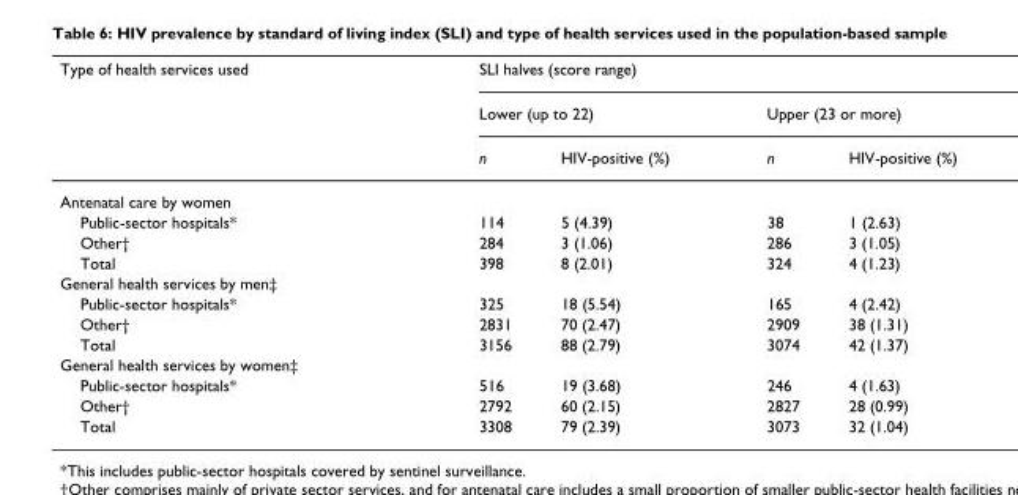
<table><thead><tr><td rowspan="3">Type of health services used</td><td colspan="4">SLI halves (score range)</td></tr><tr><td colspan="2">Lower (up to 22)</td><td colspan="2">Upper (23 or more)</td></tr><tr><td>n</td><td>HIV-positive (%)</td><td>n</td><td>HIV-positive (%)</td></tr></thead><tbody><tr><td colspan="5">Antenatal care by women</td></tr><tr><td>Public-sector hospitals*</td><td>114</td><td>5 (4.39)</td><td>38</td><td>1 (2.63)</td></tr><tr><td>Other†</td><td>284</td><td>3 (1.06)</td><td>286</td><td>3 (1.05)</td></tr><tr><td>Total</td><td>398</td><td>8 (2.01)</td><td>324</td><td>4 (1.23)</td></tr><tr><td colspan="5">General health services by men‡</td></tr><tr><td>Public-sector hospitals*</td><td>325</td><td>18 (5.54)</td><td>165</td><td>4 (2.42)</td></tr><tr><td>Other†</td><td>2831</td><td>70 (2.47)</td><td>2909</td><td>38 (1.31)</td></tr><tr><td>Total</td><td>3156</td><td>88 (2.79)</td><td>3074</td><td>42 (1.37)</td></tr><tr><td colspan="5">General health services by women‡</td></tr><tr><td>Public-sector hospitals*</td><td>516</td><td>19 (3.68)</td><td>246</td><td>4 (1.63)</td></tr><tr><td>Other†</td><td>2792</td><td>60 (2.15)</td><td>2827</td><td>28 (0.99)</td></tr><tr><td>Total</td><td>3308</td><td>79 (2.39)</td><td>3073</td><td>32 (1.04)</td></tr></tbody></table>